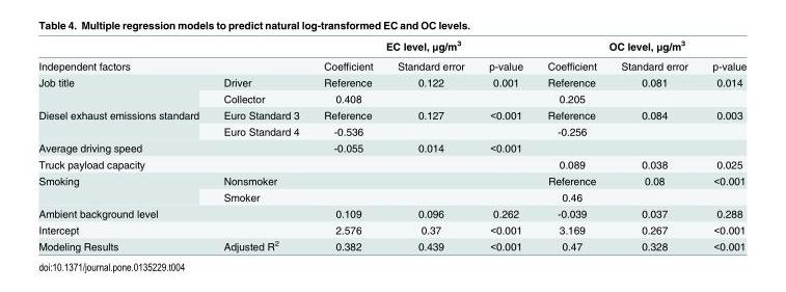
<table><thead><tr><td rowspan="2">Independent factors</td><td rowspan="2"></td><td colspan="3">EC level, μg/m<sup>3</sup></td><td colspan="3">OC level, μg/m<sup>3</sup></td></tr><tr><td>Coefficient</td><td>Standard error</td><td>p-value</td><td>Coefficient</td><td>Standard error</td><td>p-value</td></tr></thead><tbody><tr><td rowspan="2">Job title</td><td>Driver</td><td>Reference</td><td>0.122</td><td>0.001</td><td>Reference</td><td>0.081</td><td>0.014</td></tr><tr><td>Collector</td><td>0.408</td><td></td><td></td><td>0.205</td><td></td><td></td></tr><tr><td rowspan="2">Diesel exhaust emissions standard</td><td>Euro Standard 3</td><td>Reference</td><td>0.127</td><td>&lt;0.001</td><td>Reference</td><td>0.084</td><td>0.003</td></tr><tr><td>Euro Standard 4</td><td>-0.536</td><td></td><td></td><td>-0.256</td><td></td><td></td></tr><tr><td>Average driving speed</td><td></td><td>-0.055</td><td>0.014</td><td>&lt;0.001</td><td></td><td></td><td></td></tr><tr><td>Truck payload capacity</td><td></td><td></td><td></td><td></td><td>0.089</td><td>0.038</td><td>0.025</td></tr><tr><td rowspan="2">Smoking</td><td>Nonsmoker</td><td></td><td></td><td></td><td>Reference</td><td>0.08</td><td>&lt;0.001</td></tr><tr><td>Smoker</td><td></td><td></td><td></td><td>0.46</td><td></td><td></td></tr><tr><td>Ambient background level</td><td></td><td>0.109</td><td>0.096</td><td>0.262</td><td>-0.039</td><td>0.037</td><td>0.288</td></tr><tr><td>Intercept</td><td></td><td>2.576</td><td>0.37</td><td>&lt;0.001</td><td>3.169</td><td>0.267</td><td>&lt;0.001</td></tr><tr><td>Modeling Results</td><td>Adjusted R<sup>2</sup></td><td>0.382</td><td>0.439</td><td>&lt;0.001</td><td>0.47</td><td>0.328</td><td>&lt;0.001</td></tr></tbody></table>